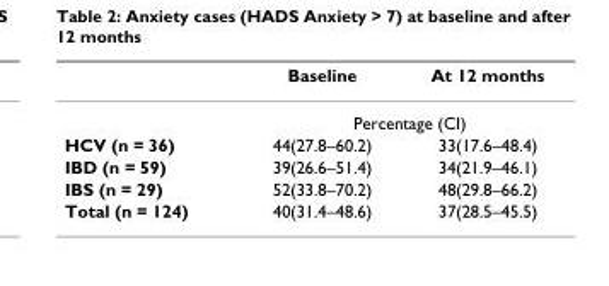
<table><thead><tr><td></td><td>Baseline</td><td>At 12 months</td></tr></thead><tbody><tr><td></td><td colspan="2">Percentage (CI)</td></tr><tr><td>HCV (n = 36)</td><td>44(27.8–60.2)</td><td>33(17.6–48.4)</td></tr><tr><td>IBD (n = 59)</td><td>39(26.6–51.4)</td><td>34(21.9–46.1)</td></tr><tr><td>IBS (n = 29)</td><td>52(33.8–70.2)</td><td>48(29.8–66.2)</td></tr><tr><td>Total (n = 124)</td><td>40(31.4–48.6)</td><td>37(28.5–45.5)</td></tr></tbody></table>